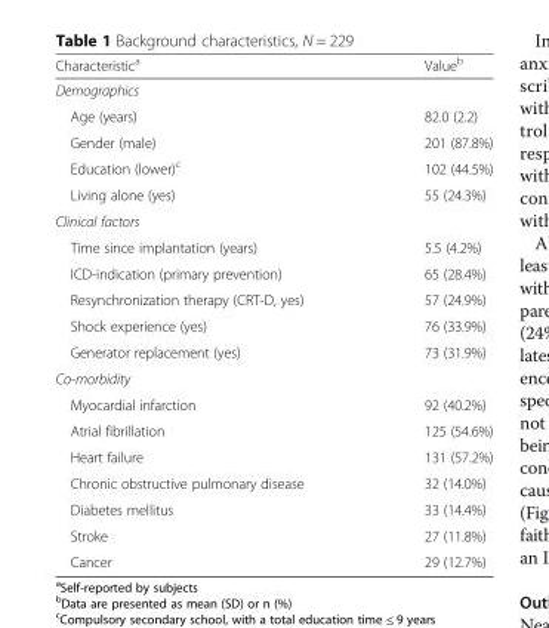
<table><thead><tr><td>Characteristic<sup>a</sup></td><td>Value<sup>b</sup></td></tr></thead><tbody><tr><td colspan="2">Demographics</td></tr><tr><td>Age (years)</td><td>82.0 (2.2)</td></tr><tr><td>Gender (male)</td><td>201 (87.8%)</td></tr><tr><td>Education (lower)<sup>c</sup></td><td>102 (44.5%)</td></tr><tr><td>Living alone (yes)</td><td>55 (24.3%)</td></tr><tr><td colspan="2">Clinical factors</td></tr><tr><td>Time since implantation (years)</td><td>5.5 (4.2%)</td></tr><tr><td>ICD-indication (primary prevention)</td><td>65 (28.4%)</td></tr><tr><td>Resynchronization therapy (CRT-D, yes)</td><td>57 (24.9%)</td></tr><tr><td>Shock experience (yes)</td><td>76 (33.9%)</td></tr><tr><td>Generator replacement (yes)</td><td>73 (31.9%)</td></tr><tr><td colspan="2">Co-morbidity</td></tr><tr><td>Myocardial infarction</td><td>92 (40.2%)</td></tr><tr><td>Atrial fibrillation</td><td>125 (54.6%)</td></tr><tr><td>Heart failure</td><td>131 (57.2%)</td></tr><tr><td>Chronic obstructive pulmonary disease</td><td>32 (14.0%)</td></tr><tr><td>Diabetes mellitus</td><td>33 (14.4%)</td></tr><tr><td>Stroke</td><td>27 (11.8%)</td></tr><tr><td>Cancer</td><td>29 (12.7%)</td></tr></tbody></table>